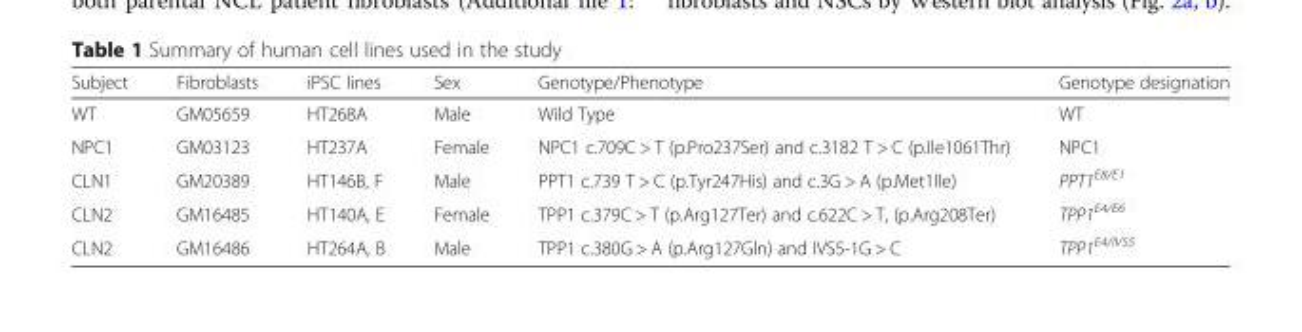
<table><thead><tr><td>Subject</td><td>Fibroblasts</td><td>iPSC lines</td><td>Sex</td><td>Genotype/Phenotype</td><td>Genotype designation</td></tr></thead><tbody><tr><td>WT</td><td>GM05659</td><td>HT268A</td><td>Male</td><td>Wild Type</td><td>WT</td></tr><tr><td>NPC1</td><td>GM03123</td><td>HT237A</td><td>Female</td><td>NPC1 c.709C &gt; T (p.Pro237Ser) and c.3182 T &gt; C (p.Ile1061Thr)</td><td>NPC1</td></tr><tr><td>CLN1</td><td>GM20389</td><td>HT146B, F</td><td>Male</td><td>PPT1 c.739 T &gt; C (p.Tyr247His) and c.3G &gt; A (p.Met1Ile)</td><td>PPT1<sup>E8/E1</sup></td></tr><tr><td>CLN2</td><td>GM16485</td><td>HT140A, E</td><td>Female</td><td>TPP1 c.379C &gt; T (p.Arg127Ter) and c.622C &gt; T, (p.Arg208Ter)</td><td>TPP1<sup>E4/E6</sup></td></tr><tr><td>CLN2</td><td>GM16486</td><td>HT264A, B</td><td>Male</td><td>TPP1 c.380G &gt; A (p.Arg127Gln) and IVS5-1G &gt; C</td><td>TPP1<sup>E4/IVS5</sup></td></tr></tbody></table>